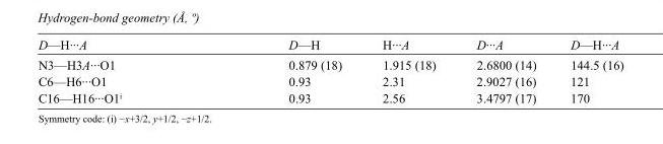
<table><tbody><tr><td>D—H···A</td><td>D—H</td><td>H···A</td><td>D···A</td><td>D—H···A</td></tr><tr><td>N3—H3A···O1</td><td>0.879 (18)</td><td>1.915 (18)</td><td>2.6800 (14)</td><td>144.5 (16)</td></tr><tr><td>C6—H6···O1</td><td>0.93</td><td>2.31</td><td>2.9027 (16)</td><td>121</td></tr><tr><td>C16—H16···O1<sup>i</sup></td><td>0.93</td><td>2.56</td><td>3.4797 (17)</td><td>170</td></tr></tbody></table>